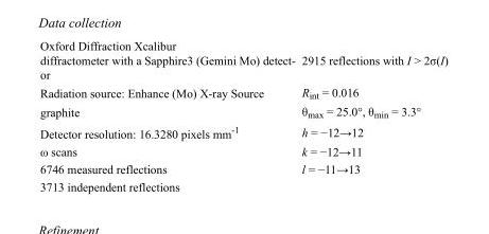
<table><tbody><tr><td>Oxford Diffraction Xcalibur diffractometer with a Sapphire3 (Gemini Mo) detect- or</td><td>2915 reflections with I &gt; 2σ(I)</td></tr><tr><td>Radiation source: Enhance (Mo) X-ray Source</td><td>R<sub>int</sub> = 0.016</td></tr><tr><td>graphite</td><td>θ<sub>max</sub> = 25.0°, θ<sub>min</sub> = 3.3°</td></tr><tr><td>Detector resolution: 16.3280 pixels mm<sup>-1</sup></td><td>h = −12→12</td></tr><tr><td>ω scans</td><td>k = −12→11</td></tr><tr><td>6746 measured reflections</td><td>l = −11→13</td></tr><tr><td>3713 independent reflections</td><td></td></tr></tbody></table>